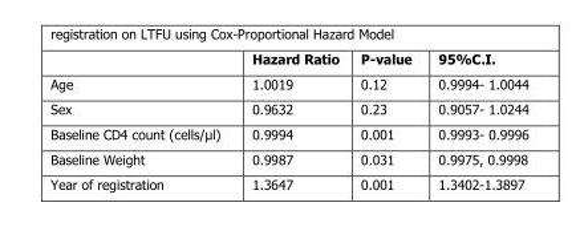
<table><thead><tr><td></td><td>Hazard Ratio</td><td>P-value</td><td>95%C.I.</td></tr></thead><tbody><tr><td>Age</td><td>1.0019</td><td>0.12</td><td>0.9994- 1.0044</td></tr><tr><td>Sex</td><td>0.9632</td><td>0.23</td><td>0.9057- 1.0244</td></tr><tr><td>Baseline CD4 count (cells/μl)</td><td>0.9994</td><td>0.001</td><td>0.9993- 0.9996</td></tr><tr><td>Baseline Weight</td><td>0.9987</td><td>0.031</td><td>0.9975, 0.9998</td></tr><tr><td>Year of registration</td><td>1.3647</td><td>0.001</td><td>1.3402-1.3897</td></tr></tbody></table>